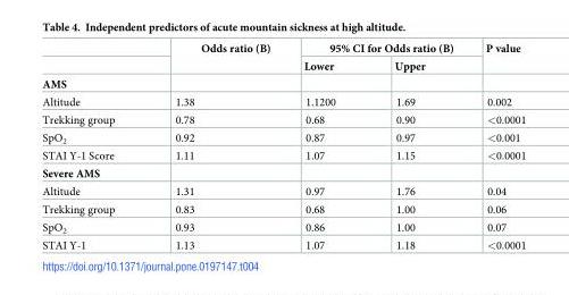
<table><thead><tr><td rowspan="2"></td><td rowspan="2">Odds ratio (B)</td><td colspan="2">95% CI for Odds ratio (B)</td><td rowspan="2">P value</td></tr><tr><td>Lower</td><td>Upper</td></tr></thead><tbody><tr><td colspan="5">AMS</td></tr><tr><td>Altitude</td><td>1.38</td><td>1.1200</td><td>1.69</td><td>0.002</td></tr><tr><td>Trekking group</td><td>0.78</td><td>0.68</td><td>0.90</td><td>&lt;0.0001</td></tr><tr><td>SpO<sub>2</sub></td><td>0.92</td><td>0.87</td><td>0.97</td><td>&lt;0.001</td></tr><tr><td>STAI Y-1 Score</td><td>1.11</td><td>1.07</td><td>1.15</td><td>&lt;0.0001</td></tr><tr><td colspan="5">Severe AMS</td></tr><tr><td>Altitude</td><td>1.31</td><td>0.97</td><td>1.76</td><td>0.04</td></tr><tr><td>Trekking group</td><td>0.83</td><td>0.68</td><td>1.00</td><td>0.06</td></tr><tr><td>SpO<sub>2</sub></td><td>0.93</td><td>0.86</td><td>1.00</td><td>0.07</td></tr><tr><td>STAI Y-1</td><td>1.13</td><td>1.07</td><td>1.18</td><td>&lt;0.0001</td></tr></tbody></table>